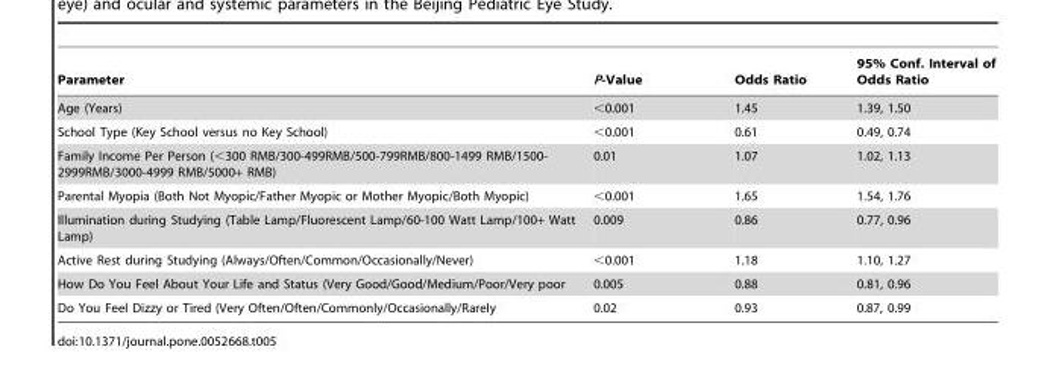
<table><thead><tr><td>Parameter</td><td>P-Value</td><td>Odds Ratio</td><td>95% Conf. Interval of Odds Ratio</td></tr></thead><tbody><tr><td>Age (Years)</td><td>&lt;0.001</td><td>1.45</td><td>1.39, 1.50</td></tr><tr><td>School Type (Key School versus no Key School)</td><td>&lt;0.001</td><td>0.61</td><td>0.49, 0.74</td></tr><tr><td>Family Income Per Person (&lt;300 RMB/300-499RMB/500-799RMB/800-1499 RMB/1500- 2999RMB/3000-4999 RMB/5000+ RMB)</td><td>0.01</td><td>1.07</td><td>1.02, 1.13</td></tr><tr><td>Parental Myopia (Both Not Myopic/Father Myopic or Mother Myopic/Both Myopic)</td><td>&lt;0.001</td><td>1.65</td><td>1.54, 1.76</td></tr><tr><td>Illumination during Studying (Table Lamp/Fluorescent Lamp/60-100 Watt Lamp/100+ Watt Lamp)</td><td>0.009</td><td>0.86</td><td>0.77, 0.96</td></tr><tr><td>Active Rest during Studying (Always/Often/Common/Occasionally/Never)</td><td>&lt;0.001</td><td>1.18</td><td>1.10, 1.27</td></tr><tr><td>How Do You Feel About Your Life and Status (Very Good/Good/Medium/Poor/Very poor</td><td>0.005</td><td>0.88</td><td>0.81, 0.96</td></tr><tr><td>Do You Feel Dizzy or Tired (Very Often/Often/Commonly/Occasionally/Rarely</td><td>0.02</td><td>0.93</td><td>0.87, 0.99</td></tr></tbody></table>